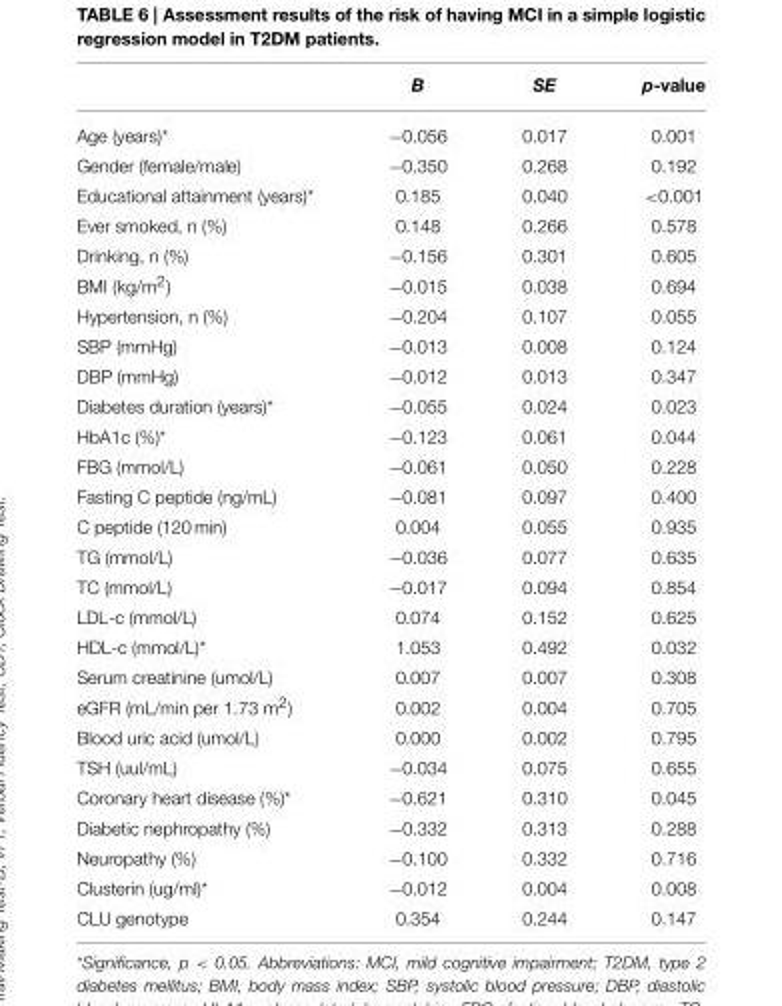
<table><thead><tr><td></td><td>B</td><td>SE</td><td>p-value</td></tr></thead><tbody><tr><td>Age (years)*</td><td>−0.056</td><td>0.017</td><td>0.001</td></tr><tr><td>Gender (female/male)</td><td>−0.350</td><td>0.268</td><td>0.192</td></tr><tr><td>Educational attainment (years)*</td><td>0.185</td><td>0.040</td><td>&lt;0.001</td></tr><tr><td>Ever smoked, n (%)</td><td>0.148</td><td>0.266</td><td>0.578</td></tr><tr><td>Drinking, n (%)</td><td>−0.156</td><td>0.301</td><td>0.605</td></tr><tr><td>BMI (kg/m<sup>2</sup>)</td><td>−0.015</td><td>0.038</td><td>0.694</td></tr><tr><td>Hypertension, n (%)</td><td>−0.204</td><td>0.107</td><td>0.055</td></tr><tr><td>SBP (mmHg)</td><td>−0.013</td><td>0.008</td><td>0.124</td></tr><tr><td>DBP (mmHg)</td><td>−0.012</td><td>0.013</td><td>0.347</td></tr><tr><td>Diabetes duration (years)*</td><td>−0.055</td><td>0.024</td><td>0.023</td></tr><tr><td>HbA1c (%)*</td><td>−0.123</td><td>0.061</td><td>0.044</td></tr><tr><td>FBG (mmol/L)</td><td>−0.061</td><td>0.050</td><td>0.228</td></tr><tr><td>Fasting C peptide (ng/mL)</td><td>−0.081</td><td>0.097</td><td>0.400</td></tr><tr><td>C peptide (120 min)</td><td>0.004</td><td>0.055</td><td>0.935</td></tr><tr><td>TG (mmol/L)</td><td>−0.036</td><td>0.077</td><td>0.635</td></tr><tr><td>TC (mmol/L)</td><td>−0.017</td><td>0.094</td><td>0.854</td></tr><tr><td>LDL-c (mmol/L)</td><td>0.074</td><td>0.152</td><td>0.625</td></tr><tr><td>HDL-c (mmol/L)*</td><td>1.053</td><td>0.492</td><td>0.032</td></tr><tr><td>Serum creatinine (umol/L)</td><td>0.007</td><td>0.007</td><td>0.308</td></tr><tr><td>eGFR (mL/min per 1.73 m<sup>2</sup>)</td><td>0.002</td><td>0.004</td><td>0.705</td></tr><tr><td>Blood uric acid (umol/L)</td><td>0.000</td><td>0.002</td><td>0.795</td></tr><tr><td>TSH (uul/mL)</td><td>−0.034</td><td>0.075</td><td>0.655</td></tr><tr><td>Coronary heart disease (%)*</td><td>−0.621</td><td>0.310</td><td>0.045</td></tr><tr><td>Diabetic nephropathy (%)</td><td>−0.332</td><td>0.313</td><td>0.288</td></tr><tr><td>Neuropathy (%)</td><td>−0.100</td><td>0.332</td><td>0.716</td></tr><tr><td>Clusterin (ug/ml)*</td><td>−0.012</td><td>0.004</td><td>0.008</td></tr><tr><td>CLU genotype</td><td>0.354</td><td>0.244</td><td>0.147</td></tr></tbody></table>